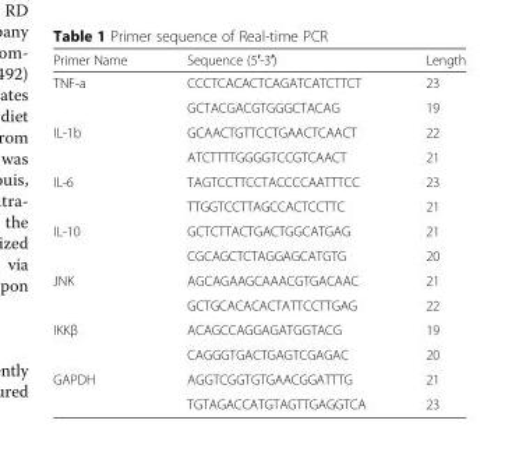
<table><thead><tr><td>Primer Name</td><td>Sequence (5′-3′)</td><td>Length</td></tr></thead><tbody><tr><td rowspan="2">TNF-a</td><td>CCCTCACACTCAGATCATCTTCT</td><td>23</td></tr><tr><td>GCTACGACGTGGGCTACAG</td><td>19</td></tr><tr><td rowspan="2">IL-1b</td><td>GCAACTGTTCCTGAACTCAACT</td><td>22</td></tr><tr><td>ATCTTTTGGGGTCCGTCAACT</td><td>21</td></tr><tr><td rowspan="2">IL-6</td><td>TAGTCCTTCCTACCCCAATTTCC</td><td>23</td></tr><tr><td>TTGGTCCTTAGCCACTCCTTC</td><td>21</td></tr><tr><td rowspan="2">IL-10</td><td>GCTCTTACTGACTGGCATGAG</td><td>21</td></tr><tr><td>CGCAGCTCTAGGAGCATGTG</td><td>20</td></tr><tr><td rowspan="2">JNK</td><td>AGCAGAAGCAAACGTGACAAC</td><td>21</td></tr><tr><td>GCTGCACACACTATTCCTTGAG</td><td>22</td></tr><tr><td rowspan="2">IKKβ</td><td>ACAGCCAGGAGATGGTACG</td><td>19</td></tr><tr><td>CAGGGTGACTGAGTCGAGAC</td><td>20</td></tr><tr><td rowspan="2">GAPDH</td><td>AGGTCGGTGTGAACGGATTTG</td><td>21</td></tr><tr><td>TGTAGACCATGTAGTTGAGGTCA</td><td>23</td></tr></tbody></table>